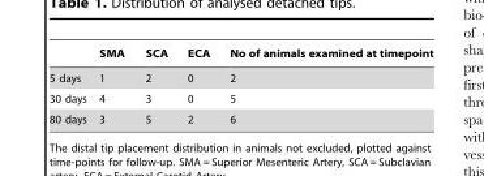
<table><thead><tr><td></td><td>SMA</td><td>SCA</td><td>ECA</td><td>No of animals examined at timepoint</td></tr></thead><tbody><tr><td>5 days</td><td>1</td><td>2</td><td>0</td><td>2</td></tr><tr><td>30 days</td><td>4</td><td>3</td><td>0</td><td>5</td></tr><tr><td>80 days</td><td>3</td><td>5</td><td>2</td><td>6</td></tr></tbody></table>